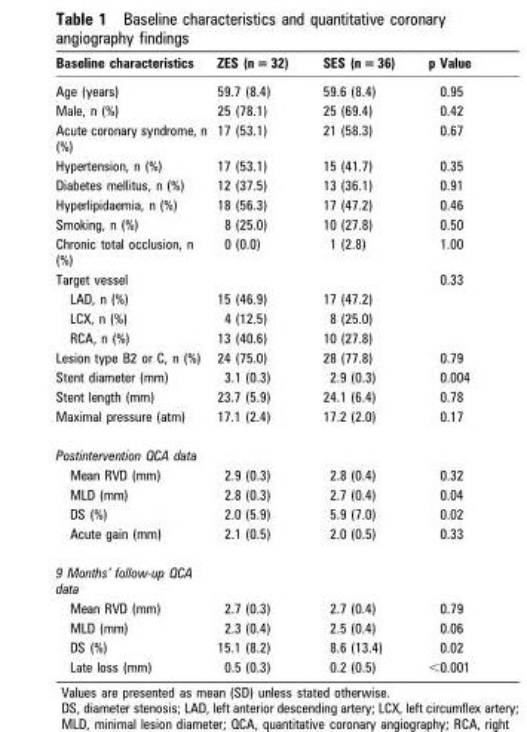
<table><thead><tr><td>Baseline characteristics</td><td>ZES (n = 32)</td><td>SES (n = 36)</td><td>p Value</td></tr></thead><tbody><tr><td>Age (years)</td><td>59.7 (8.4)</td><td>59.6 (8.4)</td><td>0.95</td></tr><tr><td>Male, n (%)</td><td>25 (78.1)</td><td>25 (69.4)</td><td>0.42</td></tr><tr><td>Acute coronary syndrome, n (%)</td><td>17 (53.1)</td><td>21 (58.3)</td><td>0.67</td></tr><tr><td>Hypertension, n (%)</td><td>17 (53.1)</td><td>15 (41.7)</td><td>0.35</td></tr><tr><td>Diabetes mellitus, n (%)</td><td>12 (37.5)</td><td>13 (36.1)</td><td>0.91</td></tr><tr><td>Hyperlipidaemia, n (%)</td><td>18 (56.3)</td><td>17 (47.2)</td><td>0.46</td></tr><tr><td>Smoking, n (%)</td><td>8 (25.0)</td><td>10 (27.8)</td><td>0.50</td></tr><tr><td>Chronic total occlusion, n (%)</td><td>0 (0.0)</td><td>1 (2.8)</td><td>1.00</td></tr><tr><td>Target vessel</td><td></td><td></td><td>0.33</td></tr><tr><td>LAD, n (%)</td><td>15 (46.9)</td><td>17 (47.2)</td><td></td></tr><tr><td>LCX, n (%)</td><td>4 (12.5)</td><td>8 (25.0)</td><td></td></tr><tr><td>RCA, n (%)</td><td>13 (40.6)</td><td>10 (27.8)</td><td></td></tr><tr><td>Lesion type B2 or C, n (%)</td><td>24 (75.0)</td><td>28 (77.8)</td><td>0.79</td></tr><tr><td>Stent diameter (mm)</td><td>3.1 (0.3)</td><td>2.9 (0.3)</td><td>0.004</td></tr><tr><td>Stent length (mm)</td><td>23.7 (5.9)</td><td>24.1 (6.4)</td><td>0.78</td></tr><tr><td>Maximal pressure (atm)</td><td>17.1 (2.4)</td><td>17.2 (2.0)</td><td>0.17</td></tr><tr><td colspan="4">Postintervention QCA data</td></tr><tr><td>Mean RVD (mm)</td><td>2.9 (0.3)</td><td>2.8 (0.4)</td><td>0.32</td></tr><tr><td>MLD (mm)</td><td>2.8 (0.3)</td><td>2.7 (0.4)</td><td>0.04</td></tr><tr><td>DS (%)</td><td>2.0 (5.9)</td><td>5.9 (7.0)</td><td>0.02</td></tr><tr><td>Acute gain (mm)</td><td>2.1 (0.5)</td><td>2.0 (0.5)</td><td>0.33</td></tr><tr><td colspan="4">9 Months’ follow-up QCA data</td></tr><tr><td>Mean RVD (mm)</td><td>2.7 (0.3)</td><td>2.7 (0.4)</td><td>0.79</td></tr><tr><td>MLD (mm)</td><td>2.3 (0.4)</td><td>2.5 (0.4)</td><td>0.06</td></tr><tr><td>DS (%)</td><td>15.1 (8.2)</td><td>8.6 (13.4)</td><td>0.02</td></tr><tr><td>Late loss (mm)</td><td>0.5 (0.3)</td><td>0.2 (0.5)</td><td>&lt;0.001</td></tr></tbody></table>